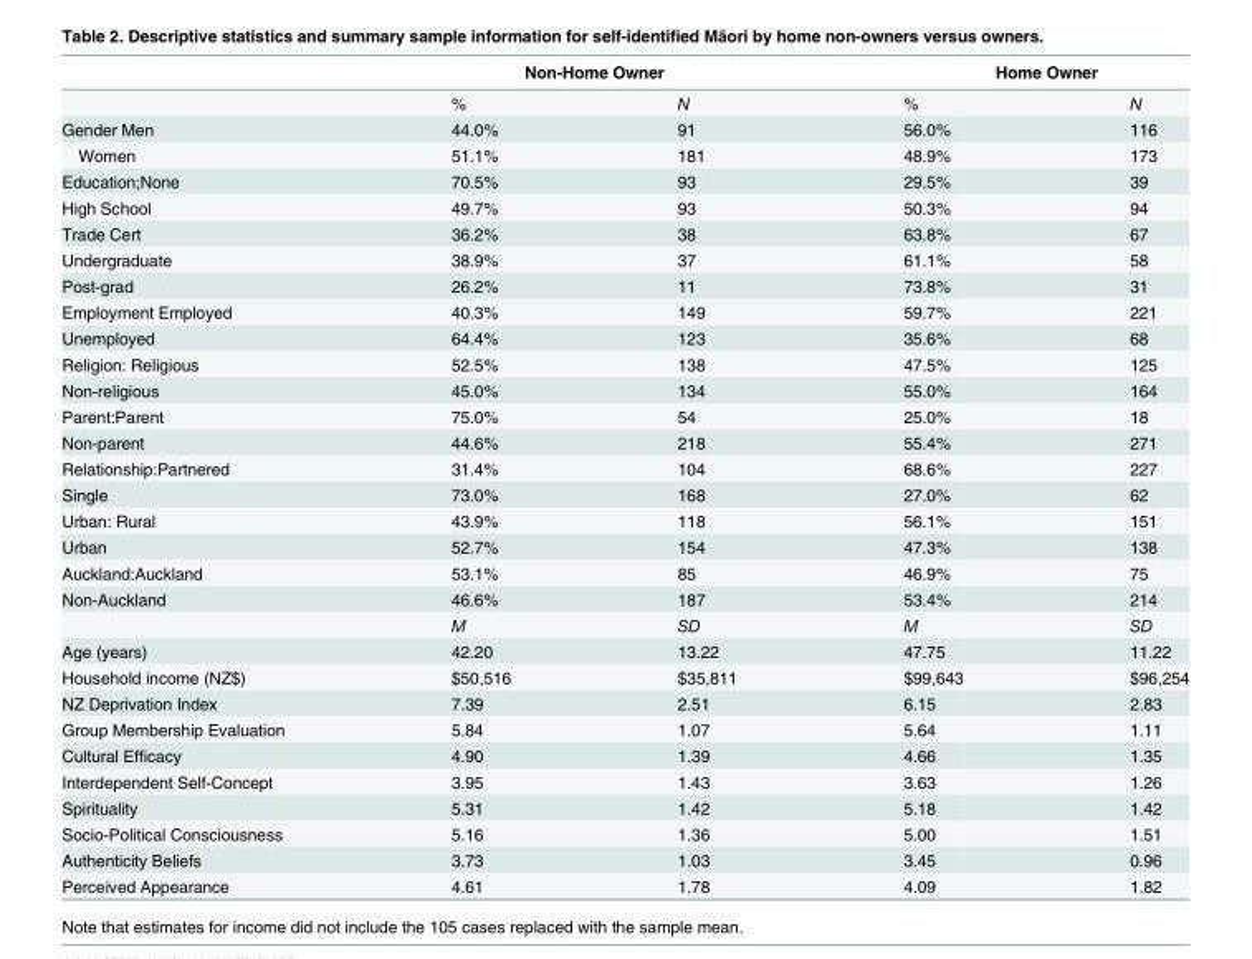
<table><thead><tr><td rowspan="2"></td><td colspan="2">Non-Home Owner</td><td colspan="2">Home Owner</td></tr><tr><td>%</td><td>N</td><td>%</td><td>N</td></tr></thead><tbody><tr><td>Gender Men</td><td>44.0%</td><td>91</td><td>56.0%</td><td>116</td></tr><tr><td>Women</td><td>51.1%</td><td>181</td><td>48.9%</td><td>173</td></tr><tr><td>Education;None</td><td>70.5%</td><td>93</td><td>29.5%</td><td>39</td></tr><tr><td>High School</td><td>49.7%</td><td>93</td><td>50.3%</td><td>94</td></tr><tr><td>Trade Cert</td><td>36.2%</td><td>38</td><td>63.8%</td><td>67</td></tr><tr><td>Undergraduate</td><td>38.9%</td><td>37</td><td>61.1%</td><td>58</td></tr><tr><td>Post-grad</td><td>26.2%</td><td>11</td><td>73.8%</td><td>31</td></tr><tr><td>Employment Employed</td><td>40.3%</td><td>149</td><td>59.7%</td><td>221</td></tr><tr><td>Unemployed</td><td>64.4%</td><td>123</td><td>35.6%</td><td>68</td></tr><tr><td>Religion: Religious</td><td>52.5%</td><td>138</td><td>47.5%</td><td>125</td></tr><tr><td>Non-religious</td><td>45.0%</td><td>134</td><td>55.0%</td><td>164</td></tr><tr><td>Parent:Parent</td><td>75.0%</td><td>54</td><td>25.0%</td><td>18</td></tr><tr><td>Non-parent</td><td>44.6%</td><td>218</td><td>55.4%</td><td>271</td></tr><tr><td>Relationship:Partnered</td><td>31.4%</td><td>104</td><td>68.6%</td><td>227</td></tr><tr><td>Single</td><td>73.0%</td><td>168</td><td>27.0%</td><td>62</td></tr><tr><td>Urban: Rural</td><td>43.9%</td><td>118</td><td>56.1%</td><td>151</td></tr><tr><td>Urban</td><td>52.7%</td><td>154</td><td>47.3%</td><td>138</td></tr><tr><td>Auckland:Auckland</td><td>53.1%</td><td>85</td><td>46.9%</td><td>75</td></tr><tr><td rowspan="2">Non-Auckland</td><td>46.6%</td><td>187</td><td>53.4%</td><td>214</td></tr><tr><td>M</td><td>SD</td><td>M</td><td>SD</td></tr><tr><td>Age (years)</td><td>42.20</td><td>13.22</td><td>47.75</td><td>11.22</td></tr><tr><td>Household income (NZ$)</td><td>$50,516</td><td>$35,811</td><td>$99,643</td><td>$96,254</td></tr><tr><td>NZ Deprivation Index</td><td>7.39</td><td>2.51</td><td>6.15</td><td>2.83</td></tr><tr><td>Group Membership Evaluation</td><td>5.84</td><td>1.07</td><td>5.64</td><td>1.11</td></tr><tr><td>Cultural Efficacy</td><td>4.90</td><td>1.39</td><td>4.66</td><td>1.35</td></tr><tr><td>Interdependent Self-Concept</td><td>3.95</td><td>1.43</td><td>3.63</td><td>1.26</td></tr><tr><td>Spirituality</td><td>5.31</td><td>1.42</td><td>5.18</td><td>1.42</td></tr><tr><td>Socio-Political Consciousness</td><td>5.16</td><td>1.36</td><td>5.00</td><td>1.51</td></tr><tr><td>Authenticity Beliefs</td><td>3.73</td><td>1.03</td><td>3.45</td><td>0.96</td></tr><tr><td>Perceived Appearance</td><td>4.61</td><td>1.78</td><td>4.09</td><td>1.82</td></tr></tbody></table>